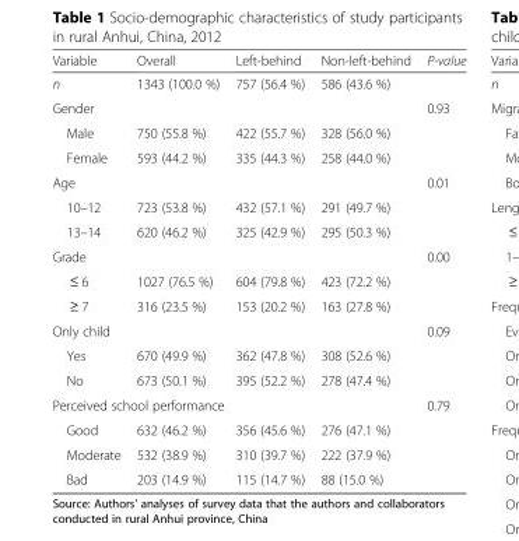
<table><thead><tr><td>Variable</td><td>Overall</td><td>Left-behind</td><td>Non-left-behind</td><td>P-value</td></tr></thead><tbody><tr><td>n</td><td>1343 (100.0 %)</td><td>757 (56.4 %)</td><td>586 (43.6 %)</td><td></td></tr><tr><td colspan="4">Gender</td><td>0.93</td></tr><tr><td>Male</td><td>750 (55.8 %)</td><td>422 (55.7 %)</td><td>328 (56.0 %)</td><td></td></tr><tr><td>Female</td><td>593 (44.2 %)</td><td>335 (44.3 %)</td><td>258 (44.0 %)</td><td></td></tr><tr><td colspan="4">Age</td><td>0.01</td></tr><tr><td>10–12</td><td>723 (53.8 %)</td><td>432 (57.1 %)</td><td>291 (49.7 %)</td><td></td></tr><tr><td>13–14</td><td>620 (46.2 %)</td><td>325 (42.9 %)</td><td>295 (50.3 %)</td><td></td></tr><tr><td colspan="4">Grade</td><td>0.00</td></tr><tr><td>≤ 6</td><td>1027 (76.5 %)</td><td>604 (79.8 %)</td><td>423 (72.2 %)</td><td></td></tr><tr><td>≥ 7</td><td>316 (23.5 %)</td><td>153 (20.2 %)</td><td>163 (27.8 %)</td><td></td></tr><tr><td colspan="4">Only child</td><td>0.09</td></tr><tr><td>Yes</td><td>670 (49.9 %)</td><td>362 (47.8 %)</td><td>308 (52.6 %)</td><td></td></tr><tr><td>No</td><td>673 (50.1 %)</td><td>395 (52.2 %)</td><td>278 (47.4 %)</td><td></td></tr><tr><td colspan="4">Perceived school performance</td><td>0.79</td></tr><tr><td>Good</td><td>632 (46.2 %)</td><td>356 (45.6 %)</td><td>276 (47.1 %)</td><td></td></tr><tr><td>Moderate</td><td>532 (38.9 %)</td><td>310 (39.7 %)</td><td>222 (37.9 %)</td><td></td></tr><tr><td>Bad</td><td>203 (14.9 %)</td><td>115 (14.7 %)</td><td>88 (15.0 %)</td><td></td></tr></tbody></table>